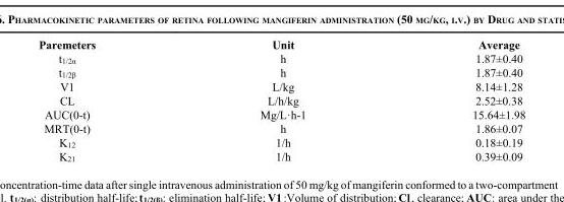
<table><thead><tr><td>Paremeters</td><td>Unit</td><td>Average</td></tr></thead><tbody><tr><td>t<sub>1/2α</sub></td><td>h</td><td>1.87±0.40</td></tr><tr><td>t<sub>1/2β</sub></td><td>h</td><td>1.87±0.40</td></tr><tr><td>V1</td><td>L/kg</td><td>8.14±1.28</td></tr><tr><td>CL</td><td>L/h/kg</td><td>2.52±0.38</td></tr><tr><td>AUC(0-t)</td><td>Mg/L·h-1</td><td>15.64±1.98</td></tr><tr><td>MRT(0-t)</td><td>h</td><td>1.86±0.07</td></tr><tr><td>K<sub>12</sub></td><td>1/h</td><td>0.18±0.19</td></tr><tr><td>K<sub>21</sub></td><td>1/h</td><td>0.39±0.09</td></tr></tbody></table>